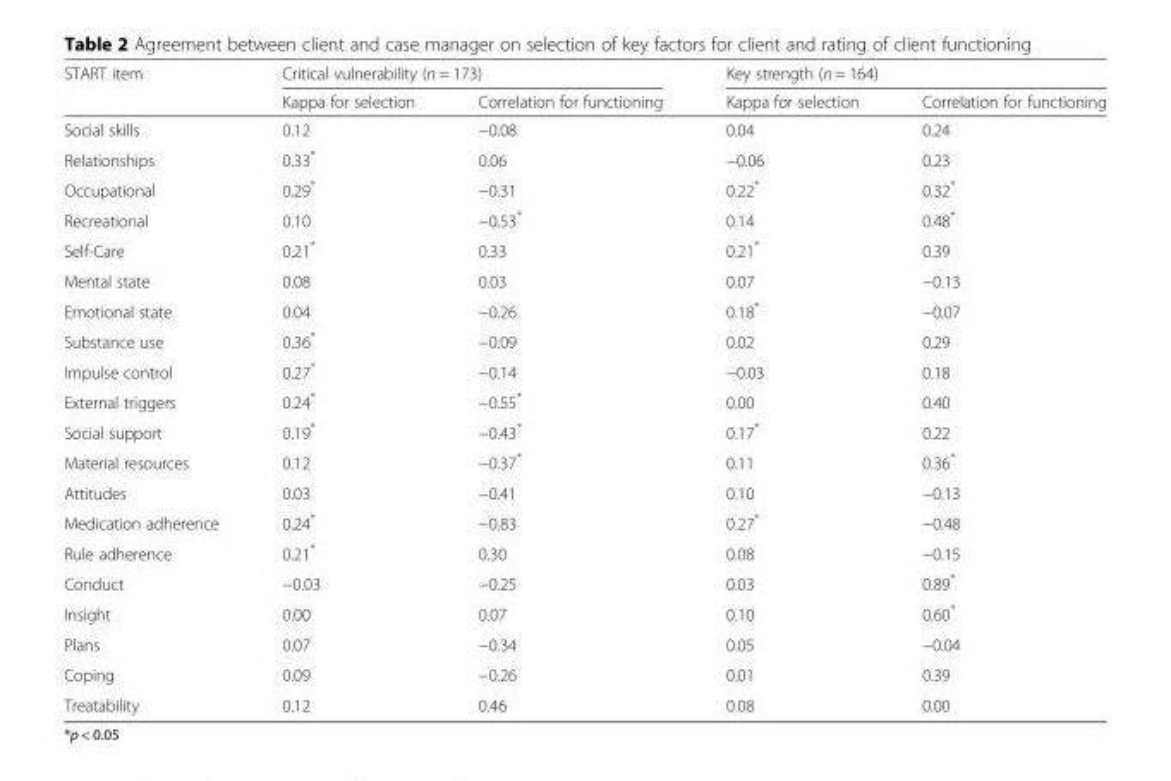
<table><thead><tr><td rowspan="2">START item</td><td colspan="2">Critical vulnerability (n = 173)</td><td colspan="2">Key strength (n = 164)</td></tr><tr><td>Kappa for selection</td><td>Correlation for functioning</td><td>Kappa for selection</td><td>Correlation for functioning</td></tr></thead><tbody><tr><td>Social skills</td><td>0.12</td><td>−0.08</td><td>0.04</td><td>0.24</td></tr><tr><td>Relationships</td><td>0.33*</td><td>0.06</td><td>−0.06</td><td>0.23</td></tr><tr><td>Occupational</td><td>0.29*</td><td>−0.31</td><td>0.22*</td><td>0.32*</td></tr><tr><td>Recreational</td><td>0.10</td><td>−0.53*</td><td>0.14</td><td>0.48*</td></tr><tr><td>Self-Care</td><td>0.21*</td><td>0.33</td><td>0.21*</td><td>0.39</td></tr><tr><td>Mental state</td><td>0.08</td><td>0.03</td><td>0.07</td><td>−0.13</td></tr><tr><td>Emotional state</td><td>0.04</td><td>−0.26</td><td>0.18*</td><td>−0.07</td></tr><tr><td>Substance use</td><td>0.36*</td><td>−0.09</td><td>0.02</td><td>0.29</td></tr><tr><td>Impulse control</td><td>0.27*</td><td>−0.14</td><td>−0.03</td><td>0.18</td></tr><tr><td>External triggers</td><td>0.24*</td><td>−0.55*</td><td>0.00</td><td>0.40</td></tr><tr><td>Social support</td><td>0.19*</td><td>−0.43*</td><td>0.17*</td><td>0.22</td></tr><tr><td>Material resources</td><td>0.12</td><td>−0.37*</td><td>0.11</td><td>0.36*</td></tr><tr><td>Attitudes</td><td>0.03</td><td>−0.41</td><td>0.10</td><td>−0.13</td></tr><tr><td>Medication adherence</td><td>0.24*</td><td>−0.83</td><td>0.27*</td><td>−0.48</td></tr><tr><td>Rule adherence</td><td>0.21*</td><td>0.30</td><td>0.08</td><td>−0.15</td></tr><tr><td>Conduct</td><td>−0.03</td><td>−0.25</td><td>0.03</td><td>0.89*</td></tr><tr><td>Insight</td><td>0.00</td><td>0.07</td><td>0.10</td><td>0.60*</td></tr><tr><td>Plans</td><td>0.07</td><td>−0.34</td><td>0.05</td><td>−0.04</td></tr><tr><td>Coping</td><td>0.09</td><td>−0.26</td><td>0.01</td><td>0.39</td></tr><tr><td>Treatability</td><td>0.12</td><td>0.46</td><td>0.08</td><td>0.00</td></tr></tbody></table>